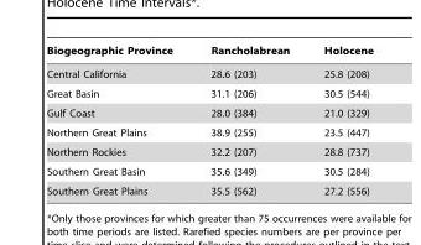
<table><thead><tr><td>Biogeographic Province</td><td>Rancholabrean</td><td>Holocene</td></tr></thead><tbody><tr><td>Central California</td><td>28.6 (203)</td><td>25.8 (208)</td></tr><tr><td>Great Basin</td><td>31.1 (206)</td><td>30.5 (544)</td></tr><tr><td>Gulf Coast</td><td>28.0 (384)</td><td>21.0 (329)</td></tr><tr><td>Northern Great Plains</td><td>38.9 (255)</td><td>23.5 (447)</td></tr><tr><td>Northern Rockies</td><td>32.2 (207)</td><td>28.8 (737)</td></tr><tr><td>Southern Great Basin</td><td>35.6 (349)</td><td>30.5 (284)</td></tr><tr><td>Southern Great Plains</td><td>35.5 (562)</td><td>27.2 (556)</td></tr></tbody></table>